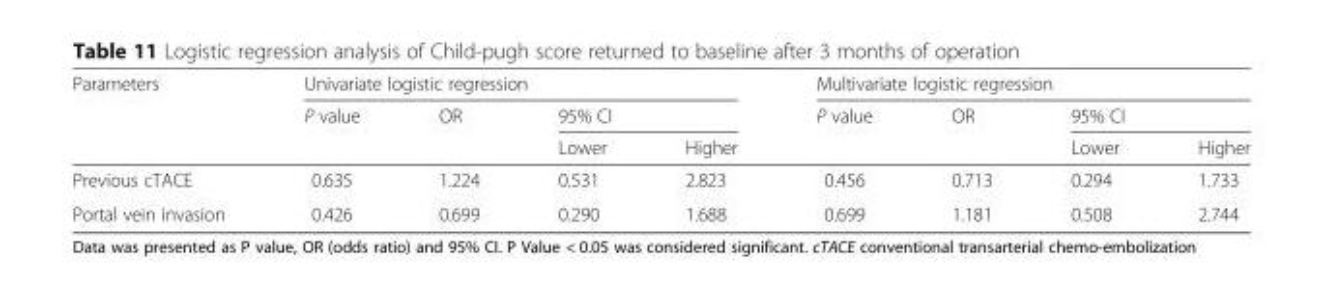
<table><thead><tr><td rowspan="3">Parameters</td><td colspan="4">Univariate logistic regression</td><td colspan="4">Multivariate logistic regression</td></tr><tr><td rowspan="2">P value</td><td rowspan="2">OR</td><td colspan="2">95% CI</td><td rowspan="2">P value</td><td rowspan="2">OR</td><td colspan="2">95% CI</td></tr><tr><td>Lower</td><td>Higher</td><td>Lower</td><td>Higher</td></tr></thead><tbody><tr><td>Previous cTACE</td><td>0.635</td><td>1.224</td><td>0.531</td><td>2.823</td><td>0.456</td><td>0.713</td><td>0.294</td><td>1.733</td></tr><tr><td>Portal vein invasion</td><td>0.426</td><td>0.699</td><td>0.290</td><td>1.688</td><td>0.699</td><td>1.181</td><td>0.508</td><td>2.744</td></tr></tbody></table>